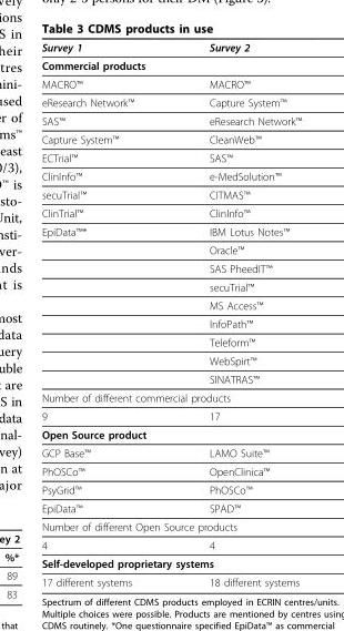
<table><thead><tr><td>Survey 1</td><td>Survey 2</td></tr></thead><tbody><tr><td colspan="2">Commercial products</td></tr><tr><td>MACRO™</td><td>MACRO™</td></tr><tr><td>eResearch Network™</td><td>Capture System™</td></tr><tr><td>SAS™</td><td>eResearch Network™</td></tr><tr><td>Capture System™</td><td>CleanWeb™</td></tr><tr><td>ECTrial™</td><td>SAS™</td></tr><tr><td>ClinInfo™</td><td>e-MedSolution™</td></tr><tr><td>secuTrial™</td><td>CITMAS™</td></tr><tr><td>ClinTrial™</td><td>ClinInfo™</td></tr><tr><td rowspan="9">EpiData™*</td><td>IBM Lotus Notes™</td></tr><tr><td>Oracle™</td></tr><tr><td>SAS PheedIT™</td></tr><tr><td>secuTrial™</td></tr><tr><td>MS Access™</td></tr><tr><td>InfoPath™</td></tr><tr><td>Teleform™</td></tr><tr><td>WebSpirt™</td></tr><tr><td>SINATRAS™</td></tr><tr><td colspan="2">Number of different commercial products</td></tr><tr><td>9</td><td>17</td></tr><tr><td colspan="2">Open Source product</td></tr><tr><td>GCP Base™</td><td>LAMO Suite™</td></tr><tr><td>PhOSCo™</td><td>OpenClinica™</td></tr><tr><td>PsyGrid™</td><td>PhOSCo™</td></tr><tr><td>EpiData™</td><td>SPAD™</td></tr><tr><td colspan="2">Number of different Open Source products</td></tr><tr><td>4</td><td>4</td></tr><tr><td colspan="2">Self-developed proprietary systems</td></tr><tr><td>17 different systems</td><td>18 different systems</td></tr></tbody></table>